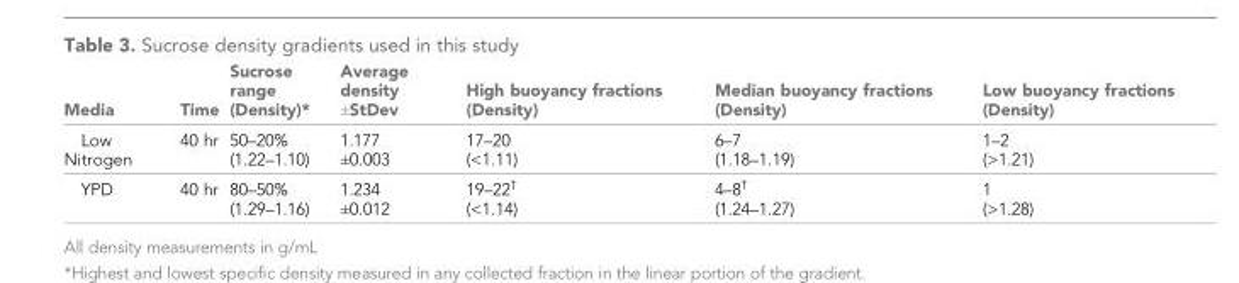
<table><thead><tr><td>Media</td><td>Time</td><td>Sucrose range (Density)*</td><td>Average density ±StDev</td><td>High buoyancy fractions (Density)</td><td>Median buoyancy fractions (Density)</td><td>Low buoyancy fractions (Density)</td></tr></thead><tbody><tr><td>Low Nitrogen</td><td>40 hr</td><td>50–20% (1.22–1.10)</td><td>1.177 ±0.003</td><td>17–20 (&lt;1.11)</td><td>6–7 (1.18–1.19)</td><td>1–2 (&gt;1.21)</td></tr><tr><td>YPD</td><td>40 hr</td><td>80–50% (1.29–1.16)</td><td>1.234 ±0.012</td><td>19–22<sup>†</sup> (&lt;1.14)</td><td>4–8<sup>†</sup> (1.24–1.27)</td><td>1 (&gt;1.28)</td></tr></tbody></table>